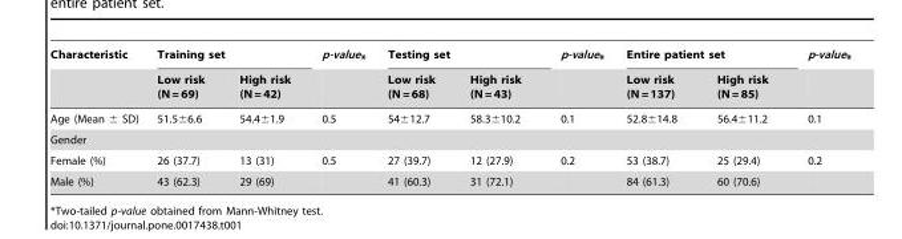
<table><thead><tr><td rowspan="2">Characteristic</td><td colspan="2">Training set</td><td rowspan="2">p-value*</td><td colspan="2">Testing set</td><td rowspan="2">p-value*</td><td colspan="2">Entire patient set</td><td rowspan="2">p-value*</td></tr><tr><td>Low risk (N = 69)</td><td>High risk (N = 42)</td><td>Low risk (N = 68)</td><td>High risk (N = 43)</td><td>Low risk (N = 137)</td><td>High risk (N = 85)</td></tr></thead><tbody><tr><td>Age (Mean ± SD)</td><td>51.5±6.6</td><td>54.4±1.9</td><td>0.5</td><td>54±12.7</td><td>58.3±10.2</td><td>0.1</td><td>52.8±14.8</td><td>56.4±11.2</td><td>0.1</td></tr><tr><td colspan="10">Gender</td></tr><tr><td>Female (%)</td><td>26 (37.7)</td><td>13 (31)</td><td>0.5</td><td>27 (39.7)</td><td>12 (27.9)</td><td>0.2</td><td>53 (38.7)</td><td>25 (29.4)</td><td>0.2</td></tr><tr><td>Male (%)</td><td>43 (62.3)</td><td>29 (69)</td><td></td><td>41 (60.3)</td><td>31 (72.1)</td><td></td><td>84 (61.3)</td><td>60 (70.6)</td><td></td></tr></tbody></table>